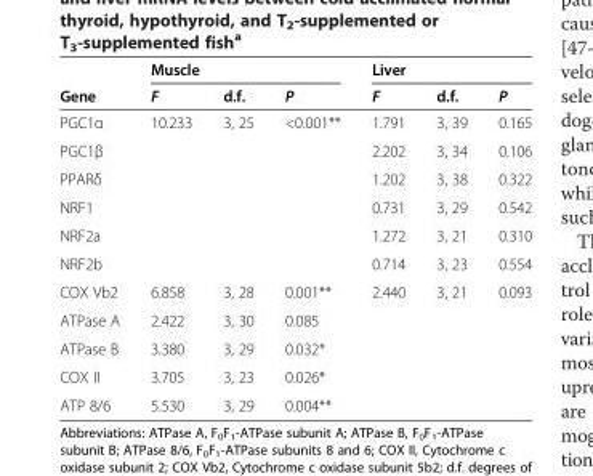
<table><thead><tr><td rowspan="2">Gene</td><td colspan="3">Muscle</td><td colspan="3">Liver</td></tr><tr><td>F</td><td>d.f.</td><td>P</td><td>F</td><td>d.f.</td><td>P</td></tr></thead><tbody><tr><td>PGC1α</td><td>10.233</td><td>3, 25</td><td>&lt;0.001**</td><td>1.791</td><td>3, 39</td><td>0.165</td></tr><tr><td>PGC1β</td><td></td><td></td><td></td><td>2.202</td><td>3, 34</td><td>0.106</td></tr><tr><td>PPARδ</td><td></td><td></td><td></td><td>1.202</td><td>3, 38</td><td>0.322</td></tr><tr><td>NRF1</td><td></td><td></td><td></td><td>0.731</td><td>3, 29</td><td>0.542</td></tr><tr><td>NRF2a</td><td></td><td></td><td></td><td>1.272</td><td>3, 21</td><td>0.310</td></tr><tr><td>NRF2b</td><td></td><td></td><td></td><td>0.714</td><td>3, 23</td><td>0.554</td></tr><tr><td>COX Vb2</td><td>6.858</td><td>3, 28</td><td>0.001**</td><td>2.440</td><td>3, 21</td><td>0.093</td></tr><tr><td>ATPase A</td><td>2.422</td><td>3, 30</td><td>0.085</td><td></td><td></td><td></td></tr><tr><td>ATPase B</td><td>3.380</td><td>3, 29</td><td>0.032*</td><td></td><td></td><td></td></tr><tr><td>COX II</td><td>3.705</td><td>3, 23</td><td>0.026*</td><td></td><td></td><td></td></tr><tr><td>ATP 8/6</td><td>5.530</td><td>3, 29</td><td>0.004**</td><td></td><td></td><td></td></tr></tbody></table>